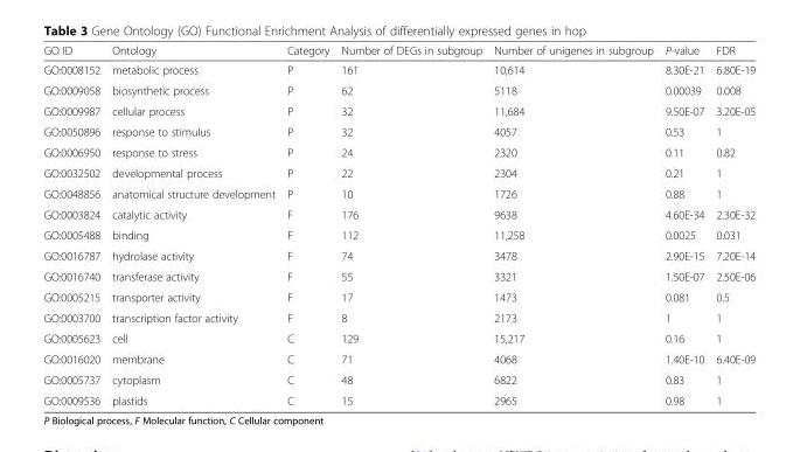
<table><thead><tr><td>GO ID</td><td>Ontology</td><td>Category</td><td>Number of DEGs in subgroup</td><td>Number of unigenes in subgroup</td><td>P-value</td><td>FDR</td></tr></thead><tbody><tr><td>GO:0008152</td><td>metabolic process</td><td>P</td><td>161</td><td>10,614</td><td>8.30E-21</td><td>6.80E-19</td></tr><tr><td>GO:0009058</td><td>biosynthetic process</td><td>P</td><td>62</td><td>5118</td><td>0.00039</td><td>0.008</td></tr><tr><td>GO:0009987</td><td>cellular process</td><td>P</td><td>32</td><td>11,684</td><td>9.50E-07</td><td>3.20E-05</td></tr><tr><td>GO:0050896</td><td>response to stimulus</td><td>P</td><td>32</td><td>4057</td><td>0.53</td><td>1</td></tr><tr><td>GO:0006950</td><td>response to stress</td><td>P</td><td>24</td><td>2320</td><td>0.11</td><td>0.82</td></tr><tr><td>GO:0032502</td><td>developmental process</td><td>P</td><td>22</td><td>2304</td><td>0.21</td><td>1</td></tr><tr><td>GO:0048856</td><td>anatomical structure development</td><td>P</td><td>10</td><td>1726</td><td>0.88</td><td>1</td></tr><tr><td>GO:0003824</td><td>catalytic activity</td><td>F</td><td>176</td><td>9638</td><td>4.60E-34</td><td>2.30E-32</td></tr><tr><td>GO:0005488</td><td>binding</td><td>F</td><td>112</td><td>11,258</td><td>0.0025</td><td>0.031</td></tr><tr><td>GO:0016787</td><td>hydrolase activity</td><td>F</td><td>74</td><td>3478</td><td>2.90E-15</td><td>7.20E-14</td></tr><tr><td>GO:0016740</td><td>transferase activity</td><td>F</td><td>55</td><td>3321</td><td>1.50E-07</td><td>2.50E-06</td></tr><tr><td>GO:0005215</td><td>transporter activity</td><td>F</td><td>17</td><td>1473</td><td>0.081</td><td>0.5</td></tr><tr><td>GO:0003700</td><td>transcription factor activity</td><td>F</td><td>8</td><td>2173</td><td>1</td><td>1</td></tr><tr><td>GO:0005623</td><td>cell</td><td>C</td><td>129</td><td>15,217</td><td>0.16</td><td>1</td></tr><tr><td>GO:0016020</td><td>membrane</td><td>C</td><td>71</td><td>4068</td><td>1.40E-10</td><td>6.40E-09</td></tr><tr><td>GO:0005737</td><td>cytoplasm</td><td>C</td><td>48</td><td>6822</td><td>0.83</td><td>1</td></tr><tr><td>GO:0009536</td><td>plastids</td><td>C</td><td>15</td><td>2965</td><td>0.98</td><td>1</td></tr></tbody></table>